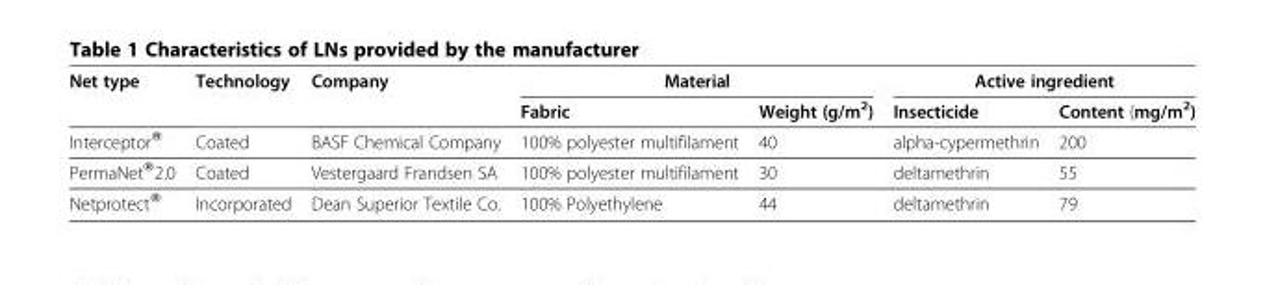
<table><thead><tr><td rowspan="2">Net type</td><td rowspan="2">Technology</td><td rowspan="2">Company</td><td colspan="2">Material</td><td colspan="2">Active ingredient</td></tr><tr><td>Fabric</td><td>Weight (g/m<sup>2</sup>)</td><td>Insecticide</td><td>Content (mg/m<sup>2</sup>)</td></tr></thead><tbody><tr><td>Interceptor<sup>®</sup></td><td>Coated</td><td>BASF Chemical Company</td><td>100% polyester multifilament</td><td>40</td><td>alpha-cypermethrin</td><td>200</td></tr><tr><td>PermaNet<sup>®</sup>2.0</td><td>Coated</td><td>Vestergaard Frandsen SA</td><td>100% polyester multifilament</td><td>30</td><td>deltamethrin</td><td>55</td></tr><tr><td>Netprotect<sup>®</sup></td><td>Incorporated</td><td>Dean Superior Textile Co.</td><td>100% Polyethylene</td><td>44</td><td>deltamethrin</td><td>79</td></tr></tbody></table>